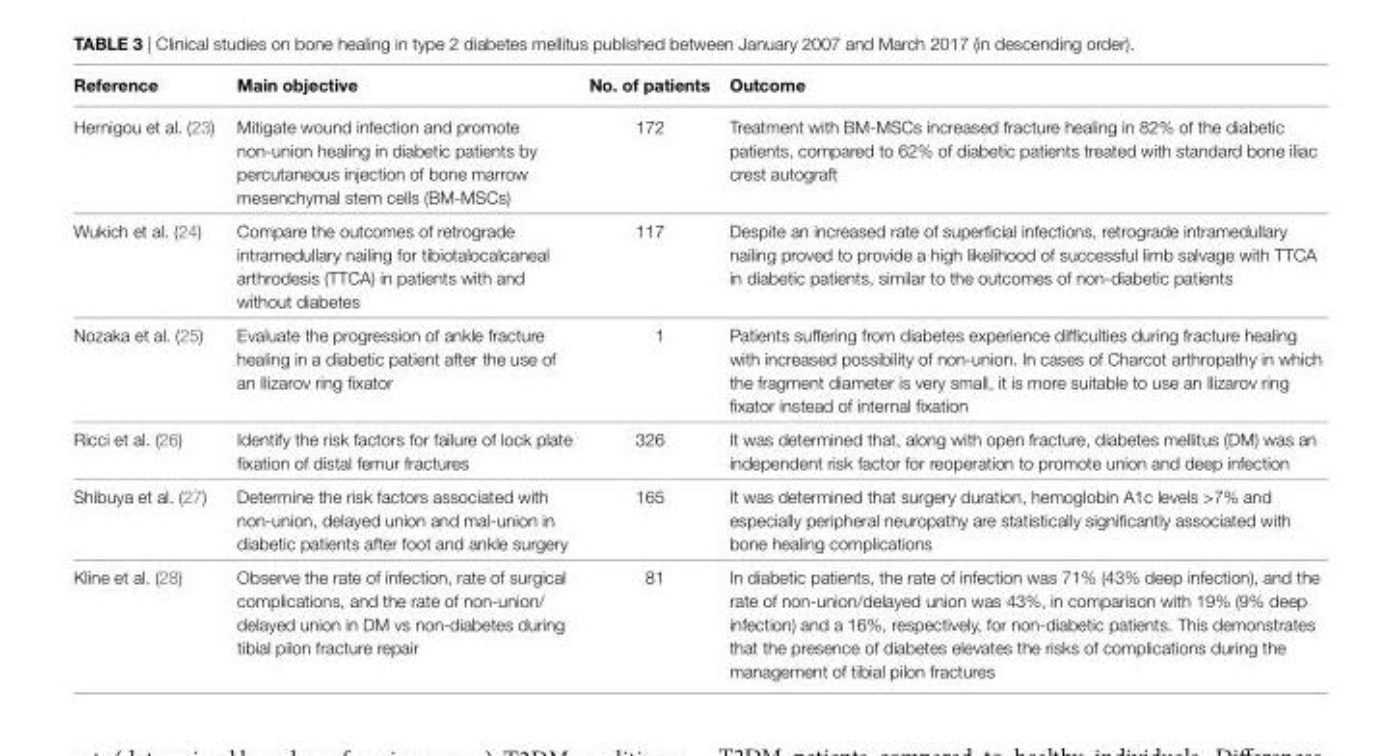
<table><thead><tr><td>Reference</td><td>Main objective</td><td>No. of patients</td><td>Outcome</td></tr></thead><tbody><tr><td>Hernigou et al. (23)</td><td>Mitigate wound infection and promote non-union healing in diabetic patients by percutaneous injection of bone marrow mesenchymal stem cells (BM-MSCs)</td><td>172</td><td>Treatment with BM-MSCs increased fracture healing in 82% of the diabetic patients, compared to 62% of diabetic patients treated with standard bone iliac crest autograft</td></tr><tr><td>Wukich et al. (24)</td><td>Compare the outcomes of retrograde intramedullary nailing for tibiotalocalcaneal arthrodesis (TTCA) in patients with and without diabetes</td><td>117</td><td>Despite an increased rate of superficial infections, retrograde intramedullary nailing proved to provide a high likelihood of successful limb salvage with TTCA in diabetic patients, similar to the outcomes of non-diabetic patients</td></tr><tr><td>Nozaka et al. (25)</td><td>Evaluate the progression of ankle fracture healing in a diabetic patient after the use of an Ilizarov ring fixator</td><td>1</td><td>Patients suffering from diabetes experience difficulties during fracture healing with increased possibility of non-union. In cases of Charcot arthropathy in which the fragment diameter is very small, it is more suitable to use an Ilizarov ring fixator instead of internal fixation</td></tr><tr><td>Ricci et al. (26)</td><td>Identify the risk factors for failure of lock plate fixation of distal femur fractures</td><td>326</td><td>It was determined that, along with open fracture, diabetes mellitus (DM) was an independent risk factor for reoperation to promote union and deep infection</td></tr><tr><td>Shibuya et al. (27)</td><td>Determine the risk factors associated with non-union, delayed union and mal-union in diabetic patients after foot and ankle surgery</td><td>165</td><td>It was determined that surgery duration, hemoglobin A1c levels &gt;7% and especially peripheral neuropathy are statistically significantly associated with bone healing complications</td></tr><tr><td>Kline et al. (28)</td><td>Observe the rate of infection, rate of surgical complications, and the rate of non-union/ delayed union in DM vs non-diabetes during tibial pilon fracture repair</td><td>81</td><td>In diabetic patients, the rate of infection was 71% (43% deep infection), and the rate of non-union/delayed union was 43%, in comparison with 19% (9% deep infection) and a 16%, respectively, for non-diabetic patients. This demonstrates that the presence of diabetes elevates the risks of complications during the management of tibial pilon fractures</td></tr></tbody></table>